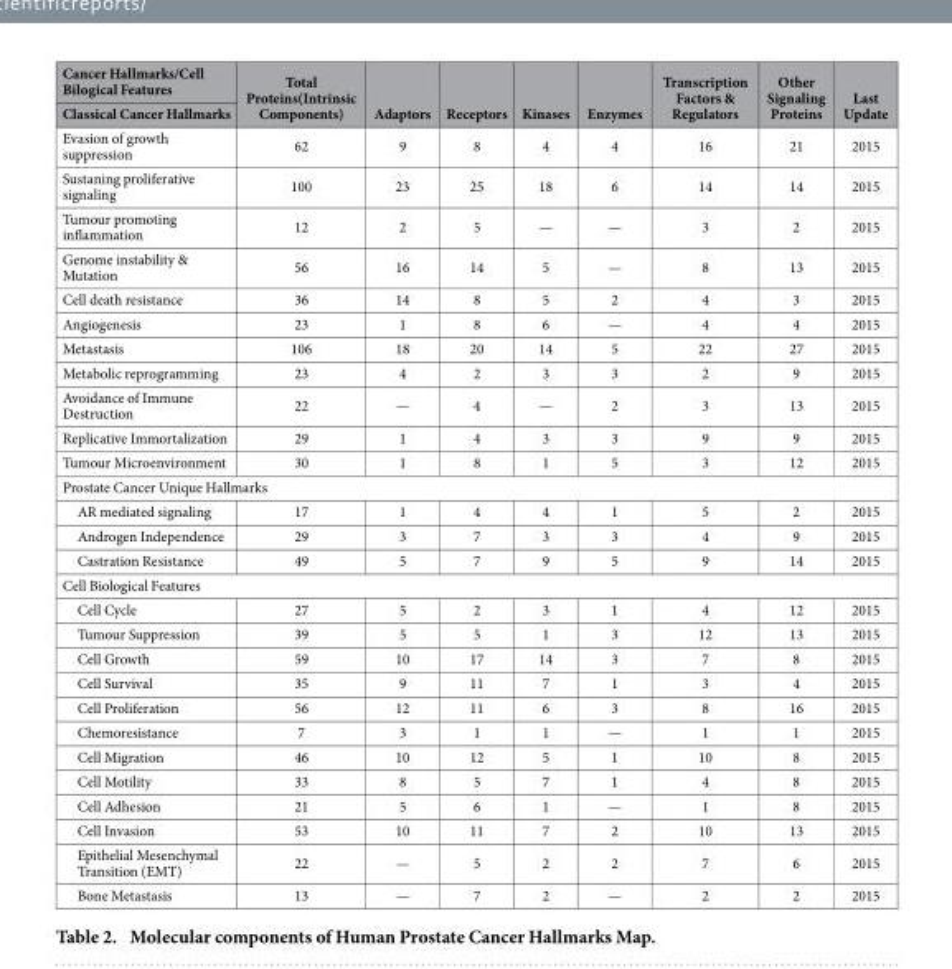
<table><thead><tr><td rowspan="2">Cancer Hallmarks/Cell Bilogical Features Classical Cancer Hallmarks</td><td rowspan="2">Total Proteins(Intrinsic Components)</td><td rowspan="2">Adaptors</td><td rowspan="2">Receptors</td><td rowspan="2">Kinases</td><td rowspan="2">Enzymes</td><td rowspan="2">Transcription Factors &amp; Regulators</td><td rowspan="2">Other Signaling Proteins</td><td rowspan="2">Last Update</td></tr><tr></tr></thead><tbody><tr><td>Evasion of growth suppression</td><td>62</td><td>9</td><td>8</td><td>4</td><td>4</td><td>16</td><td>21</td><td>2015</td></tr><tr><td>Sustaning proliferative signaling</td><td>100</td><td>23</td><td>25</td><td>18</td><td>6</td><td>14</td><td>14</td><td>2015</td></tr><tr><td>Tumour promoting inflammation</td><td>12</td><td>2</td><td>5</td><td>—</td><td>—</td><td>3</td><td>2</td><td>2015</td></tr><tr><td>Genome instability &amp; Mutation</td><td>56</td><td>16</td><td>14</td><td>5</td><td>—</td><td>8</td><td>13</td><td>2015</td></tr><tr><td>Cell death resistance</td><td>36</td><td>14</td><td>8</td><td>5</td><td>2</td><td>4</td><td>3</td><td>2015</td></tr><tr><td>Angiogenesis</td><td>23</td><td>1</td><td>8</td><td>6</td><td>—</td><td>4</td><td>4</td><td>2015</td></tr><tr><td>Metastasis</td><td>106</td><td>18</td><td>20</td><td>14</td><td>5</td><td>22</td><td>27</td><td>2015</td></tr><tr><td>Metabolic reprogramming</td><td>23</td><td>4</td><td>2</td><td>3</td><td>3</td><td>2</td><td>9</td><td>2015</td></tr><tr><td>Avoidance of Immune Destruction</td><td>22</td><td>—</td><td>4</td><td>—</td><td>2</td><td>3</td><td>13</td><td>2015</td></tr><tr><td>Replicative Immortalization</td><td>29</td><td>1</td><td>4</td><td>3</td><td>3</td><td>9</td><td>9</td><td>2015</td></tr><tr><td>Tumour Microenvironment</td><td>30</td><td>1</td><td>8</td><td>1</td><td>5</td><td>3</td><td>12</td><td>2015</td></tr><tr><td colspan="9">Prostate Cancer Unique Hallmarks</td></tr><tr><td>AR mediated signaling</td><td>17</td><td>1</td><td>4</td><td>4</td><td>1</td><td>5</td><td>2</td><td>2015</td></tr><tr><td>Androgen Independence</td><td>29</td><td>3</td><td>7</td><td>3</td><td>3</td><td>4</td><td>9</td><td>2015</td></tr><tr><td>Castration Resistance</td><td>49</td><td>5</td><td>7</td><td>9</td><td>5</td><td>9</td><td>14</td><td>2015</td></tr><tr><td colspan="9">Cell Biological Features</td></tr><tr><td>Cell Cycle</td><td>27</td><td>5</td><td>2</td><td>3</td><td>1</td><td>4</td><td>12</td><td>2015</td></tr><tr><td>Tumour Suppression</td><td>39</td><td>5</td><td>5</td><td>1</td><td>3</td><td>12</td><td>13</td><td>2015</td></tr><tr><td>Cell Growth</td><td>59</td><td>10</td><td>17</td><td>14</td><td>3</td><td>7</td><td>8</td><td>2015</td></tr><tr><td>Cell Survival</td><td>35</td><td>9</td><td>11</td><td>7</td><td>1</td><td>3</td><td>4</td><td>2015</td></tr><tr><td>Cell Proliferation</td><td>56</td><td>12</td><td>11</td><td>6</td><td>3</td><td>8</td><td>16</td><td>2015</td></tr><tr><td>Chemoresistance</td><td>7</td><td>3</td><td>1</td><td>1</td><td>—</td><td>1</td><td>1</td><td>2015</td></tr><tr><td>Cell Migration</td><td>46</td><td>10</td><td>12</td><td>5</td><td>1</td><td>10</td><td>8</td><td>2015</td></tr><tr><td>Cell Motility</td><td>33</td><td>8</td><td>5</td><td>7</td><td>1</td><td>4</td><td>8</td><td>2015</td></tr><tr><td>Cell Adhesion</td><td>21</td><td>5</td><td>6</td><td>1</td><td>—</td><td>1</td><td>8</td><td>2015</td></tr><tr><td>Cell Invasion</td><td>53</td><td>10</td><td>11</td><td>7</td><td>2</td><td>10</td><td>13</td><td>2015</td></tr><tr><td>Epithelial Mesenchymal Transition (EMT)</td><td>22</td><td>—</td><td>5</td><td>2</td><td>2</td><td>7</td><td>6</td><td>2015</td></tr><tr><td>Bone Metastasis</td><td>13</td><td>—</td><td>7</td><td>2</td><td>—</td><td>2</td><td>2</td><td>2015</td></tr></tbody></table>